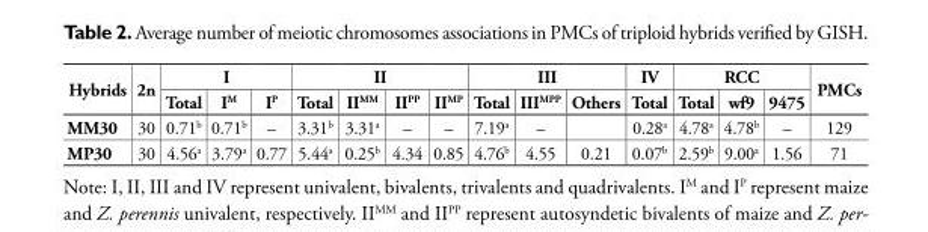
<table><tbody><tr><td rowspan="2">Hybrids</td><td rowspan="2">2n</td><td colspan="3">I</td><td colspan="4">II</td><td colspan="3">III</td><td>IV</td><td colspan="3">RCC</td><td rowspan="2">PMCs</td></tr><tr><td>Total</td><td>I<sup>M</sup></td><td>I<sup>P</sup></td><td>Total</td><td>II<sup>MM</sup></td><td>II<sup>PP</sup></td><td>II<sup>MP</sup></td><td>Total</td><td>III<sup>MPP</sup></td><td>Others</td><td>Total</td><td>Total</td><td>wf9</td><td>9475</td></tr><tr><td>MM30</td><td>30</td><td>0.71<sup>b</sup></td><td>0.71<sup>b</sup></td><td>–</td><td>3.31<sup>b</sup></td><td>3.31<sup>a</sup></td><td>–</td><td>–</td><td>7.19<sup>a</sup></td><td>–</td><td></td><td>0.28<sup>a</sup></td><td>4.78<sup>a</sup></td><td>4.78<sup>b</sup></td><td>–</td><td>129</td></tr><tr><td>MP30</td><td>30</td><td>4.56<sup>a</sup></td><td>3.79<sup>a</sup></td><td>0.77</td><td>5.44<sup>a</sup></td><td>0.25<sup>b</sup></td><td>4.34</td><td>0.85</td><td>4.76<sup>b</sup></td><td>4.55</td><td>0.21</td><td>0.07<sup>b</sup></td><td>2.59<sup>b</sup></td><td>9.00<sup>a</sup></td><td>1.56</td><td>71</td></tr></tbody></table>